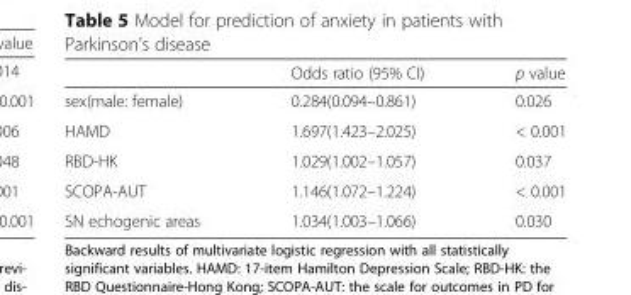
<table><thead><tr><td></td><td>Odds ratio (95% CI)</td><td>p value</td></tr></thead><tbody><tr><td>sex(male: female)</td><td>0.284(0.094–0.861)</td><td>0.026</td></tr><tr><td>HAMD</td><td>1.697(1.423–2.025)</td><td>&lt; 0.001</td></tr><tr><td>RBD-HK</td><td>1.029(1.002–1.057)</td><td>0.037</td></tr><tr><td>SCOPA-AUT</td><td>1.146(1.072–1.224)</td><td>&lt; 0.001</td></tr><tr><td>SN echogenic areas</td><td>1.034(1.003–1.066)</td><td>0.030</td></tr></tbody></table>